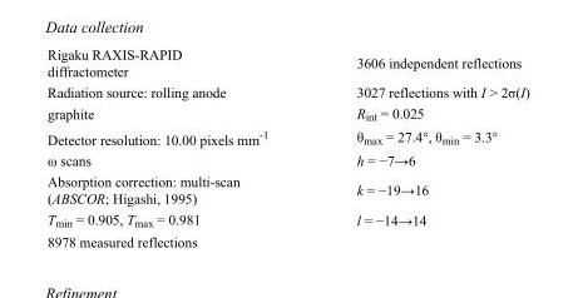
<table><tbody><tr><td>Rigaku RAXIS-RAPID diffractometer</td><td>3606 independent reflections</td></tr><tr><td>Radiation source: rolling anode</td><td>3027 reflections with I &gt; 2σ(I)</td></tr><tr><td>graphite</td><td>R<sub>int</sub> = 0.025</td></tr><tr><td>Detector resolution: 10.00 pixels mm<sup>-1</sup></td><td>θ<sub>max</sub> = 27.4°, θ<sub>min</sub> = 3.3°</td></tr><tr><td>ω scans</td><td>h = −7→6</td></tr><tr><td>Absorption correction: multi-scan (ABSCOR; Higashi, 1995)</td><td>k = −19→16</td></tr><tr><td>T<sub>min</sub> = 0.905, T<sub>max</sub> = 0.981</td><td>l = −14→14</td></tr><tr><td>8978 measured reflections</td><td></td></tr></tbody></table>